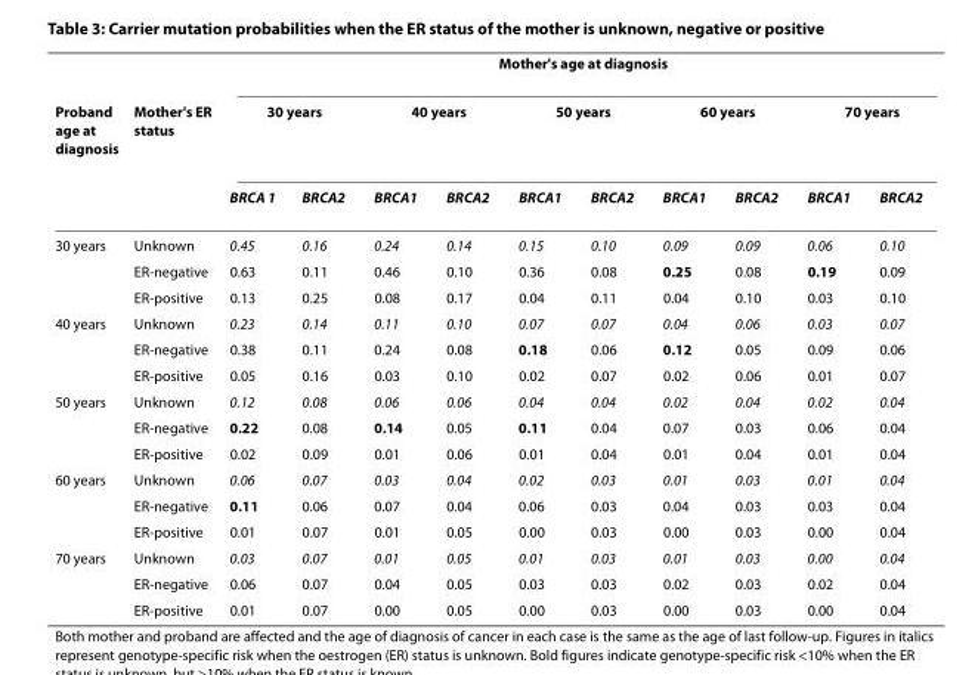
<table><thead><tr><td rowspan="3">Proband age at diagnosis</td><td rowspan="3">Mother&#x27;s ER status</td><td colspan="10">Mother&#x27;s age at diagnosis</td></tr><tr><td colspan="2">30 years</td><td colspan="2">40 years</td><td colspan="2">50 years</td><td colspan="2">60 years</td><td colspan="2">70 years</td></tr><tr><td>BRCA 1</td><td>BRCA2</td><td>BRCA1</td><td>BRCA2</td><td>BRCA1</td><td>BRCA2</td><td>BRCA1</td><td>BRCA2</td><td>BRCA1</td><td>BRCA2</td></tr></thead><tbody><tr><td rowspan="3">30 years</td><td>Unknown</td><td>0.45</td><td>0.16</td><td>0.24</td><td>0.14</td><td>0.15</td><td>0.10</td><td>0.09</td><td>0.09</td><td>0.06</td><td>0.10</td></tr><tr><td>ER-negative</td><td>0.63</td><td>0.11</td><td>0.46</td><td>0.10</td><td>0.36</td><td>0.08</td><td>0.25</td><td>0.08</td><td>0.19</td><td>0.09</td></tr><tr><td>ER-positive</td><td>0.13</td><td>0.25</td><td>0.08</td><td>0.17</td><td>0.04</td><td>0.11</td><td>0.04</td><td>0.10</td><td>0.03</td><td>0.10</td></tr><tr><td rowspan="3">40 years</td><td>Unknown</td><td>0.23</td><td>0.14</td><td>0.11</td><td>0.10</td><td>0.07</td><td>0.07</td><td>0.04</td><td>0.06</td><td>0.03</td><td>0.07</td></tr><tr><td>ER-negative</td><td>0.38</td><td>0.11</td><td>0.24</td><td>0.08</td><td>0.18</td><td>0.06</td><td>0.12</td><td>0.05</td><td>0.09</td><td>0.06</td></tr><tr><td>ER-positive</td><td>0.05</td><td>0.16</td><td>0.03</td><td>0.10</td><td>0.02</td><td>0.07</td><td>0.02</td><td>0.06</td><td>0.01</td><td>0.07</td></tr><tr><td rowspan="3">50 years</td><td>Unknown</td><td>0.12</td><td>0.08</td><td>0.06</td><td>0.06</td><td>0.04</td><td>0.04</td><td>0.02</td><td>0.04</td><td>0.02</td><td>0.04</td></tr><tr><td>ER-negative</td><td>0.22</td><td>0.08</td><td>0.14</td><td>0.05</td><td>0.11</td><td>0.04</td><td>0.07</td><td>0.03</td><td>0.06</td><td>0.04</td></tr><tr><td>ER-positive</td><td>0.02</td><td>0.09</td><td>0.01</td><td>0.06</td><td>0.01</td><td>0.04</td><td>0.01</td><td>0.04</td><td>0.01</td><td>0.04</td></tr><tr><td rowspan="3">60 years</td><td>Unknown</td><td>0.06</td><td>0.07</td><td>0.03</td><td>0.04</td><td>0.02</td><td>0.03</td><td>0.01</td><td>0.03</td><td>0.01</td><td>0.04</td></tr><tr><td>ER-negative</td><td>0.11</td><td>0.06</td><td>0.07</td><td>0.04</td><td>0.06</td><td>0.03</td><td>0.04</td><td>0.03</td><td>0.03</td><td>0.04</td></tr><tr><td>ER-positive</td><td>0.01</td><td>0.07</td><td>0.01</td><td>0.05</td><td>0.00</td><td>0.03</td><td>0.00</td><td>0.03</td><td>0.00</td><td>0.04</td></tr><tr><td rowspan="3">70 years</td><td>Unknown</td><td>0.03</td><td>0.07</td><td>0.01</td><td>0.05</td><td>0.01</td><td>0.03</td><td>0.01</td><td>0.03</td><td>0.00</td><td>0.04</td></tr><tr><td>ER-negative</td><td>0.06</td><td>0.07</td><td>0.04</td><td>0.05</td><td>0.03</td><td>0.03</td><td>0.02</td><td>0.03</td><td>0.02</td><td>0.04</td></tr><tr><td>ER-positive</td><td>0.01</td><td>0.07</td><td>0.00</td><td>0.05</td><td>0.00</td><td>0.03</td><td>0.00</td><td>0.03</td><td>0.00</td><td>0.04</td></tr></tbody></table>